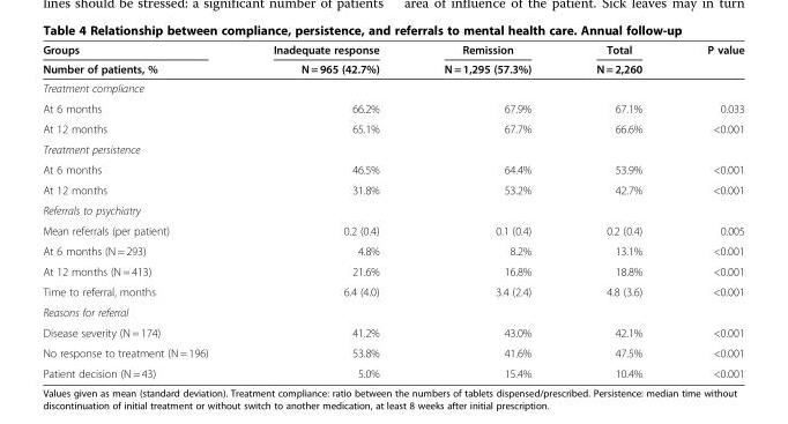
<table><thead><tr><td rowspan="2">Groups Number of patients, %</td><td rowspan="2">Inadequate response N = 965 (42.7%)</td><td rowspan="2">Remission N = 1,295 (57.3%)</td><td rowspan="2">Total N = 2,260</td><td rowspan="2">P value</td></tr><tr></tr></thead><tbody><tr><td colspan="5">Treatment compliance</td></tr><tr><td>At 6 months</td><td>66.2%</td><td>67.9%</td><td>67.1%</td><td>0.033</td></tr><tr><td>At 12 months</td><td>65.1%</td><td>67.7%</td><td>66.6%</td><td>&lt;0.001</td></tr><tr><td colspan="5">Treatment persistence</td></tr><tr><td>At 6 months</td><td>46.5%</td><td>64.4%</td><td>53.9%</td><td>&lt;0.001</td></tr><tr><td>At 12 months</td><td>31.8%</td><td>53.2%</td><td>42.7%</td><td>&lt;0.001</td></tr><tr><td colspan="5">Referrals to psychiatry</td></tr><tr><td>Mean referrals (per patient)</td><td>0.2 (0.4)</td><td>0.1 (0.4)</td><td>0.2 (0.4)</td><td>0.005</td></tr><tr><td>At 6 months (N = 293)</td><td>4.8%</td><td>8.2%</td><td>13.1%</td><td>&lt;0.001</td></tr><tr><td>At 12 months (N = 413)</td><td>21.6%</td><td>16.8%</td><td>18.8%</td><td>&lt;0.001</td></tr><tr><td>Time to referral, months</td><td>6.4 (4.0)</td><td>3.4 (2.4)</td><td>4.8 (3.6)</td><td>&lt;0.001</td></tr><tr><td colspan="5">Reasons for referral</td></tr><tr><td>Disease severity (N = 174)</td><td>41.2%</td><td>43.0%</td><td>42.1%</td><td>&lt;0.001</td></tr><tr><td>No response to treatment (N = 196)</td><td>53.8%</td><td>41.6%</td><td>47.5%</td><td>&lt;0.001</td></tr><tr><td>Patient decision (N = 43)</td><td>5.0%</td><td>15.4%</td><td>10.4%</td><td>&lt;0.001</td></tr></tbody></table>